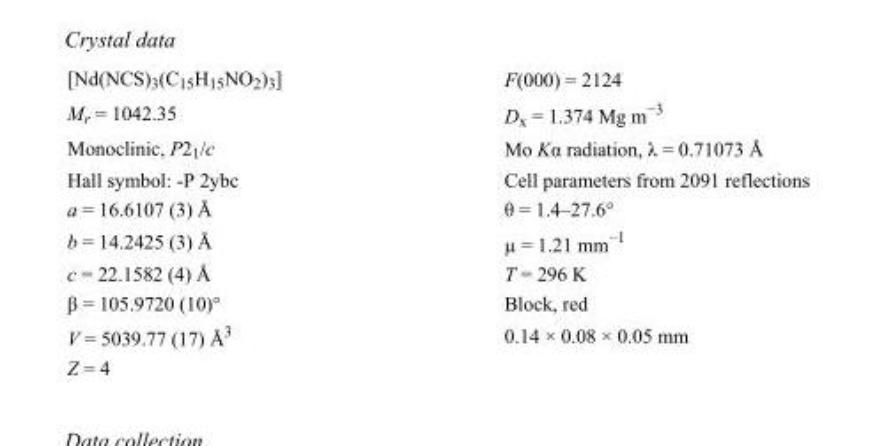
<table><tbody><tr><td>[Nd(NCS)<sub>3</sub>(C<sub>15</sub>H<sub>15</sub>NO<sub>2</sub>)<sub>3</sub>]</td><td>F(000) = 2124</td></tr><tr><td>M<sub>r</sub> = 1042.35</td><td>D<sub>x</sub> = 1.374 Mg m<sup>−3</sup></td></tr><tr><td>Monoclinic, P2<sub>1</sub>/c</td><td>Mo Kα radiation, λ = 0.71073 Å</td></tr><tr><td>Hall symbol: -P 2ybc</td><td>Cell parameters from 2091 reflections</td></tr><tr><td>a = 16.6107 (3) Å</td><td>θ = 1.4–27.6°</td></tr><tr><td>b = 14.2425 (3) Å</td><td>µ = 1.21 mm<sup>−1</sup></td></tr><tr><td>c = 22.1582 (4) Å</td><td>T = 296 K</td></tr><tr><td>β = 105.9720 (10)°</td><td>Block, red</td></tr><tr><td>V = 5039.77 (17) Å<sup>3</sup></td><td>0.14 × 0.08 × 0.05 mm</td></tr><tr><td>Z = 4</td><td></td></tr></tbody></table>